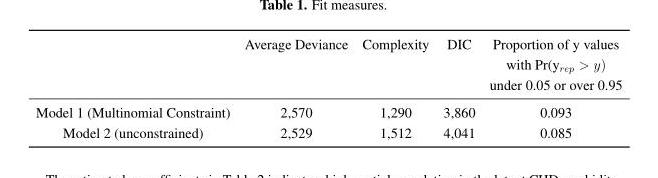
<table><thead><tr><td></td><td>Average Deviance</td><td>Complexity</td><td>DIC</td><td>Proportion of y values with Pr(y<sub>rep</sub> &gt; y) under 0.05 or over 0.95</td></tr></thead><tbody><tr><td>Model 1 (Multinomial Constraint)</td><td>2,570</td><td>1,290</td><td>3,860</td><td>0.093</td></tr><tr><td>Model 2 (unconstrained)</td><td>2,529</td><td>1,512</td><td>4,041</td><td>0.085</td></tr></tbody></table>